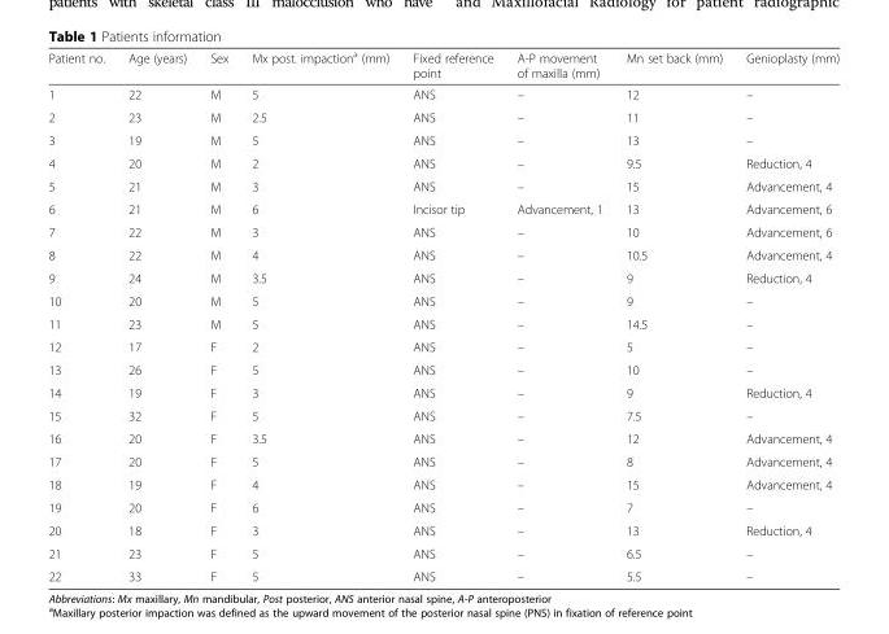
<table><thead><tr><td>Patient no.</td><td>Age (years)</td><td>Sex</td><td>Mx post. impaction<sup>a</sup> (mm)</td><td>Fixed reference point</td><td>A-P movement of maxilla (mm)</td><td>Mn set back (mm)</td><td>Genioplasty (mm)</td></tr></thead><tbody><tr><td>1</td><td>22</td><td>M</td><td>5</td><td>ANS</td><td>–</td><td>12</td><td>–</td></tr><tr><td>2</td><td>23</td><td>M</td><td>2.5</td><td>ANS</td><td>–</td><td>11</td><td>–</td></tr><tr><td>3</td><td>19</td><td>M</td><td>5</td><td>ANS</td><td>–</td><td>13</td><td>–</td></tr><tr><td>4</td><td>20</td><td>M</td><td>2</td><td>ANS</td><td>–</td><td>9.5</td><td>Reduction, 4</td></tr><tr><td>5</td><td>21</td><td>M</td><td>3</td><td>ANS</td><td>–</td><td>15</td><td>Advancement, 4</td></tr><tr><td>6</td><td>21</td><td>M</td><td>6</td><td>Incisor tip</td><td>Advancement, 1</td><td>13</td><td>Advancement, 6</td></tr><tr><td>7</td><td>22</td><td>M</td><td>3</td><td>ANS</td><td>–</td><td>10</td><td>Advancement, 6</td></tr><tr><td>8</td><td>22</td><td>M</td><td>4</td><td>ANS</td><td>–</td><td>10.5</td><td>Advancement, 4</td></tr><tr><td>9</td><td>24</td><td>M</td><td>3.5</td><td>ANS</td><td>–</td><td>9</td><td>Reduction, 4</td></tr><tr><td>10</td><td>20</td><td>M</td><td>5</td><td>ANS</td><td>–</td><td>9</td><td>–</td></tr><tr><td>11</td><td>23</td><td>M</td><td>5</td><td>ANS</td><td>–</td><td>14.5</td><td>–</td></tr><tr><td>12</td><td>17</td><td>F</td><td>2</td><td>ANS</td><td>–</td><td>5</td><td>–</td></tr><tr><td>13</td><td>26</td><td>F</td><td>5</td><td>ANS</td><td>–</td><td>10</td><td>–</td></tr><tr><td>14</td><td>19</td><td>F</td><td>3</td><td>ANS</td><td>–</td><td>9</td><td>Reduction, 4</td></tr><tr><td>15</td><td>32</td><td>F</td><td>5</td><td>ANS</td><td>–</td><td>7.5</td><td>–</td></tr><tr><td>16</td><td>20</td><td>F</td><td>3.5</td><td>ANS</td><td>–</td><td>12</td><td>Advancement, 4</td></tr><tr><td>17</td><td>20</td><td>F</td><td>5</td><td>ANS</td><td>–</td><td>8</td><td>Advancement, 4</td></tr><tr><td>18</td><td>19</td><td>F</td><td>4</td><td>ANS</td><td>–</td><td>15</td><td>Advancement, 4</td></tr><tr><td>19</td><td>20</td><td>F</td><td>6</td><td>ANS</td><td>–</td><td>7</td><td>–</td></tr><tr><td>20</td><td>18</td><td>F</td><td>3</td><td>ANS</td><td>–</td><td>13</td><td>Reduction, 4</td></tr><tr><td>21</td><td>23</td><td>F</td><td>5</td><td>ANS</td><td>–</td><td>6.5</td><td>–</td></tr><tr><td>22</td><td>33</td><td>F</td><td>5</td><td>ANS</td><td>–</td><td>5.5</td><td>–</td></tr></tbody></table>